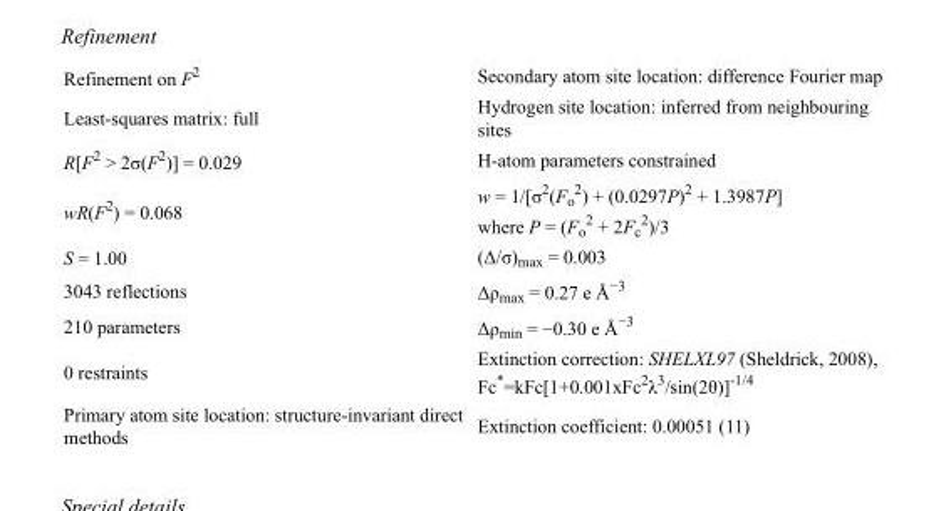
<table><tbody><tr><td>Refinement on F<sup>2</sup></td><td>Secondary atom site location: difference Fourier map</td></tr><tr><td>Least-squares matrix: full</td><td>Hydrogen site location: inferred from neighbouring sites</td></tr><tr><td>R[F<sup>2</sup> &gt; 2σ(F<sup>2</sup>)] = 0.029</td><td>H-atom parameters constrained</td></tr><tr><td>wR(F<sup>2</sup>) = 0.068</td><td>w = 1/[σ<sup>2</sup>(F<sub>o</sub> <sup>2</sup>) + (0.0297P)<sup>2</sup> + 1.3987P] where P = (F<sub>o</sub> <sup>2</sup> + 2F<sub>c</sub> <sup>2</sup>)/3</td></tr><tr><td>S = 1.00</td><td>(Δ/σ)<sub>max</sub> = 0.003</td></tr><tr><td>3043 reflections</td><td>Δρ<sub>max</sub> = 0.27 e Å<sup>−3</sup></td></tr><tr><td>210 parameters</td><td>Δρ<sub>min</sub> = −0.30 e Å<sup>−3</sup></td></tr><tr><td>0 restraints</td><td>Extinction correction: SHELXL97 (Sheldrick, 2008), Fc*=kFc[1+0.001xFc<sup>2</sup>λ<sup>3</sup>/sin(2θ)]<sup>-1/4</sup></td></tr><tr><td>Primary atom site location: structure-invariant direct methods</td><td>Extinction coefficient: 0.00051 (11)</td></tr></tbody></table>